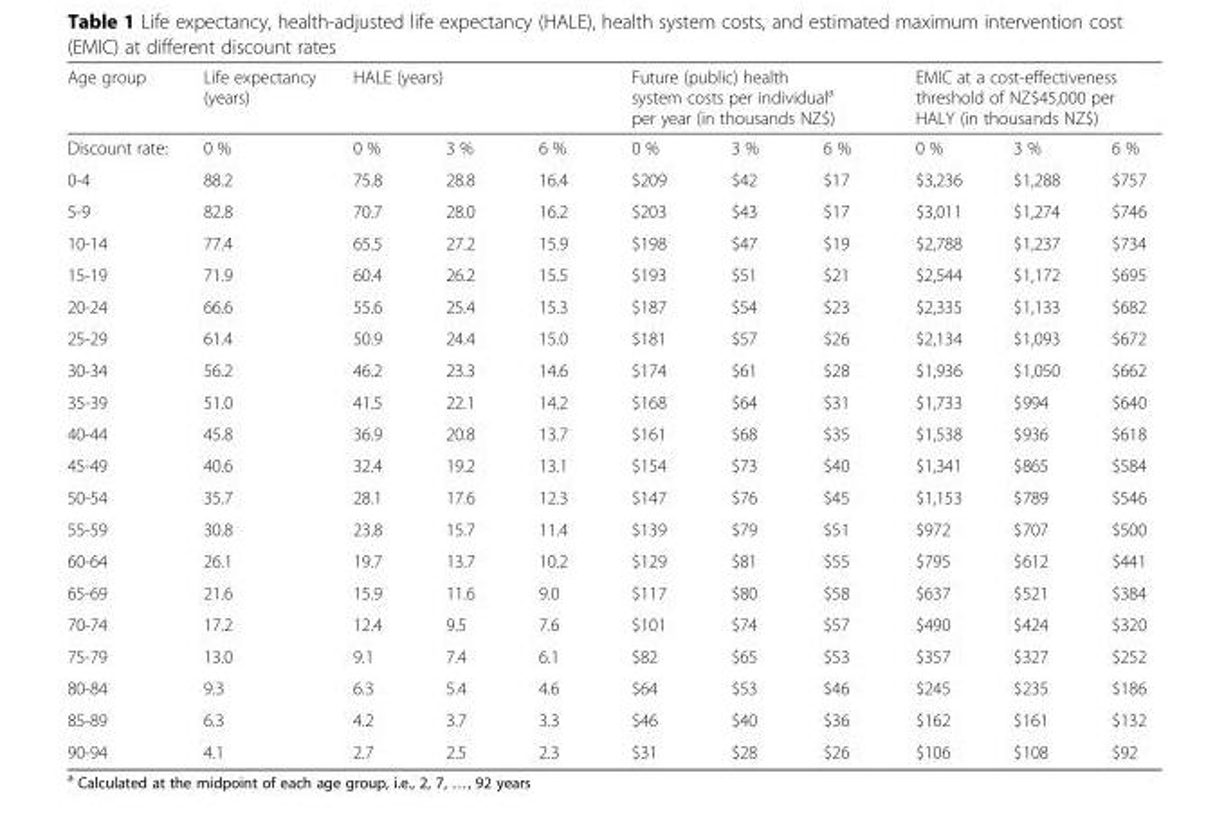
<table><thead><tr><td rowspan="2">Age group Discount rate:</td><td rowspan="2">Life expectancy (years) 0 %</td><td colspan="3">HALE (years)</td><td colspan="3">Future (public) health system costs per individual<sup>a</sup> per year (in thousands NZ$)</td><td colspan="3">EMIC at a cost-effectiveness threshold of NZ$45,000 per HALY (in thousands NZ$)</td></tr><tr><td>0 %</td><td>3 %</td><td>6 %</td><td>0 %</td><td>3 %</td><td>6 %</td><td>0 %</td><td>3 %</td><td>6 %</td></tr></thead><tbody><tr><td>0-4</td><td>88.2</td><td>75.8</td><td>28.8</td><td>16.4</td><td>$209</td><td>$42</td><td>$17</td><td>$3,236</td><td>$1,288</td><td>$757</td></tr><tr><td>5-9</td><td>82.8</td><td>70.7</td><td>28.0</td><td>16.2</td><td>$203</td><td>$43</td><td>$17</td><td>$3,011</td><td>$1,274</td><td>$746</td></tr><tr><td>10-14</td><td>77.4</td><td>65.5</td><td>27.2</td><td>15.9</td><td>$198</td><td>$47</td><td>$19</td><td>$2,788</td><td>$1,237</td><td>$734</td></tr><tr><td>15-19</td><td>71.9</td><td>60.4</td><td>26.2</td><td>15.5</td><td>$193</td><td>$51</td><td>$21</td><td>$2,544</td><td>$1,172</td><td>$695</td></tr><tr><td>20-24</td><td>66.6</td><td>55.6</td><td>25.4</td><td>15.3</td><td>$187</td><td>$54</td><td>$23</td><td>$2,335</td><td>$1,133</td><td>$682</td></tr><tr><td>25-29</td><td>61.4</td><td>50.9</td><td>24.4</td><td>15.0</td><td>$181</td><td>$57</td><td>$26</td><td>$2,134</td><td>$1,093</td><td>$672</td></tr><tr><td>30-34</td><td>56.2</td><td>46.2</td><td>23.3</td><td>14.6</td><td>$174</td><td>$61</td><td>$28</td><td>$1,936</td><td>$1,050</td><td>$662</td></tr><tr><td>35-39</td><td>51.0</td><td>41.5</td><td>22.1</td><td>14.2</td><td>$168</td><td>$64</td><td>$31</td><td>$1,733</td><td>$994</td><td>$640</td></tr><tr><td>40-44</td><td>45.8</td><td>36.9</td><td>20.8</td><td>13.7</td><td>$161</td><td>$68</td><td>$35</td><td>$1,538</td><td>$936</td><td>$618</td></tr><tr><td>45-49</td><td>40.6</td><td>32.4</td><td>19.2</td><td>13.1</td><td>$154</td><td>$73</td><td>$40</td><td>$1,341</td><td>$865</td><td>$584</td></tr><tr><td>50-54</td><td>35.7</td><td>28.1</td><td>17.6</td><td>12.3</td><td>$147</td><td>$76</td><td>$45</td><td>$1,153</td><td>$789</td><td>$546</td></tr><tr><td>55-59</td><td>30.8</td><td>23.8</td><td>15.7</td><td>11.4</td><td>$139</td><td>$79</td><td>$51</td><td>$972</td><td>$707</td><td>$500</td></tr><tr><td>60-64</td><td>26.1</td><td>19.7</td><td>13.7</td><td>10.2</td><td>$129</td><td>$81</td><td>$55</td><td>$795</td><td>$612</td><td>$441</td></tr><tr><td>65-69</td><td>21.6</td><td>15.9</td><td>11.6</td><td>9.0</td><td>$117</td><td>$80</td><td>$58</td><td>$637</td><td>$521</td><td>$384</td></tr><tr><td>70-74</td><td>17.2</td><td>12.4</td><td>9.5</td><td>7.6</td><td>$101</td><td>$74</td><td>$57</td><td>$490</td><td>$424</td><td>$320</td></tr><tr><td>75-79</td><td>13.0</td><td>9.1</td><td>7.4</td><td>6.1</td><td>$82</td><td>$65</td><td>$53</td><td>$357</td><td>$327</td><td>$252</td></tr><tr><td>80-84</td><td>9.3</td><td>6.3</td><td>5.4</td><td>4.6</td><td>$64</td><td>$53</td><td>$46</td><td>$245</td><td>$235</td><td>$186</td></tr><tr><td>85-89</td><td>6.3</td><td>4.2</td><td>3.7</td><td>3.3</td><td>$46</td><td>$40</td><td>$36</td><td>$162</td><td>$161</td><td>$132</td></tr><tr><td>90-94</td><td>4.1</td><td>2.7</td><td>2.5</td><td>2.3</td><td>$31</td><td>$28</td><td>$26</td><td>$106</td><td>$108</td><td>$92</td></tr></tbody></table>